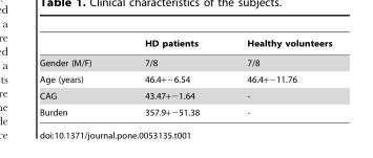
<table><thead><tr><td></td><td>HD patients</td><td>Healthy volunteers</td></tr></thead><tbody><tr><td>Gender (M/F)</td><td>7/8</td><td>7/8</td></tr><tr><td>Age (years)</td><td>46.4+−6.54</td><td>46.4+−11.76</td></tr><tr><td>CAG</td><td>43.47+−1.64</td><td>-</td></tr><tr><td>Burden</td><td>357.9+−51.38</td><td>-</td></tr></tbody></table>